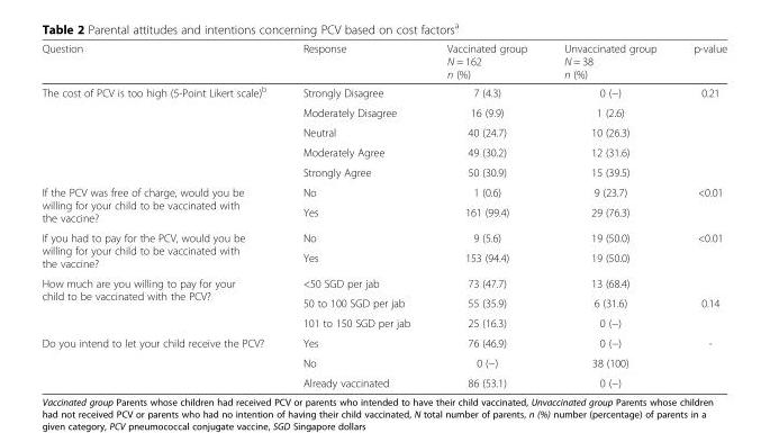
<table><thead><tr><td>Question</td><td>Response</td><td>Vaccinated group N = 162 n (%)</td><td>Unvaccinated group N = 38 n (%)</td><td>p-value</td></tr></thead><tbody><tr><td rowspan="5">The cost of PCV is too high (5-Point Likert scale)<sup>b</sup></td><td>Strongly Disagree</td><td>7 (4.3)</td><td>0 (−)</td><td rowspan="5">0.21</td></tr><tr><td>Moderately Disagree</td><td>16 (9.9)</td><td>1 (2.6)</td></tr><tr><td>Neutral</td><td>40 (24.7)</td><td>10 (26.3)</td></tr><tr><td>Moderately Agree</td><td>49 (30.2)</td><td>12 (31.6)</td></tr><tr><td>Strongly Agree</td><td>50 (30.9)</td><td>15 (39.5)</td></tr><tr><td rowspan="2">If the PCV was free of charge, would you be willing for your child to be vaccinated with the vaccine?</td><td>No</td><td>1 (0.6)</td><td>9 (23.7)</td><td rowspan="2">&lt;0.01</td></tr><tr><td>Yes</td><td>161 (99.4)</td><td>29 (76.3)</td></tr><tr><td rowspan="2">If you had to pay for the PCV, would you be willing for your child to be vaccinated with the vaccine?</td><td>No</td><td>9 (5.6)</td><td>19 (50.0)</td><td rowspan="2">&lt;0.01</td></tr><tr><td>Yes</td><td>153 (94.4)</td><td>19 (50.0)</td></tr><tr><td rowspan="3">How much are you willing to pay for your child to be vaccinated with the PCV?</td><td>&lt;50 SGD per jab</td><td>73 (47.7)</td><td>13 (68.4)</td><td></td></tr><tr><td>50 to 100 SGD per jab</td><td>55 (35.9)</td><td>6 (31.6)</td><td rowspan="2">0.14</td></tr><tr><td>101 to 150 SGD per jab</td><td>25 (16.3)</td><td>0 (−)</td></tr><tr><td rowspan="3">Do you intend to let your child receive the PCV?</td><td>Yes</td><td>76 (46.9)</td><td>0 (−)</td><td rowspan="3">-</td></tr><tr><td>No</td><td>0 (−)</td><td>38 (100)</td></tr><tr><td>Already vaccinated</td><td>86 (53.1)</td><td>0 (−)</td></tr></tbody></table>